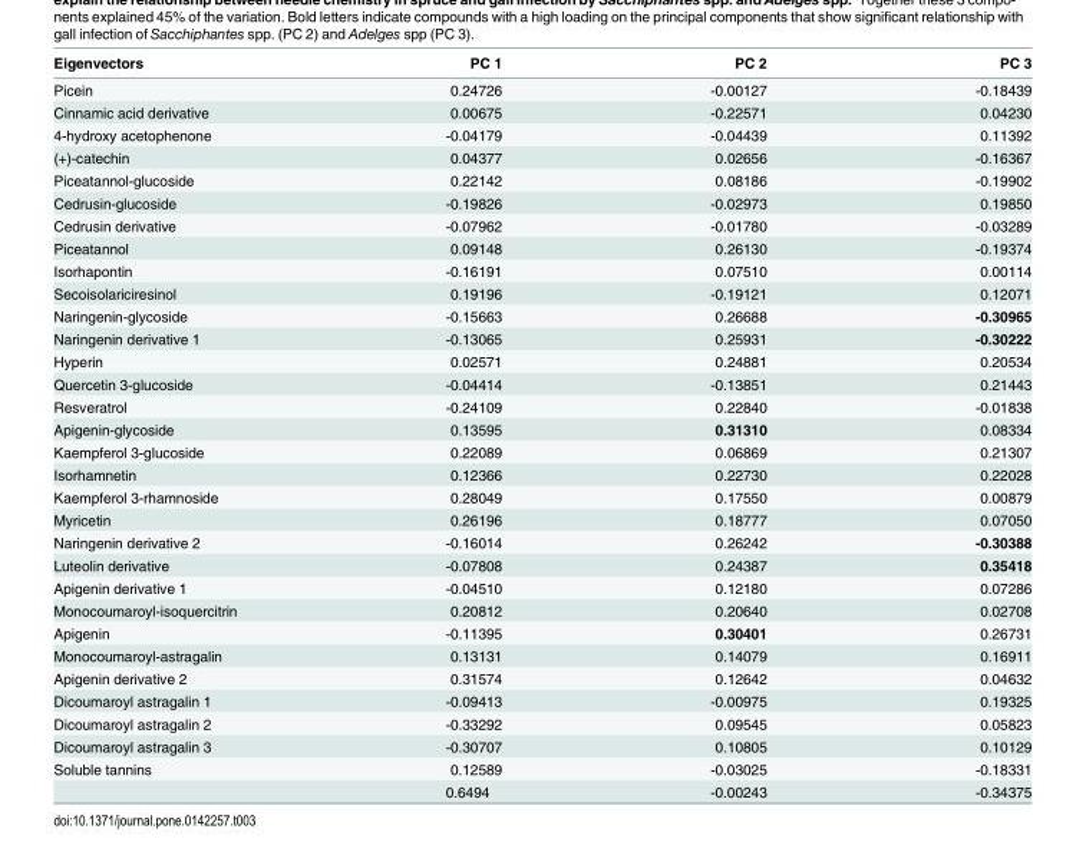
<table><thead><tr><td>Eigenvectors</td><td>PC 1</td><td>PC 2</td><td>PC 3</td></tr></thead><tbody><tr><td>Picein</td><td>0.24726</td><td>-0.00127</td><td>-0.18439</td></tr><tr><td>Cinnamic acid derivative</td><td>0.00675</td><td>-0.22571</td><td>0.04230</td></tr><tr><td>4-hydroxy acetophenone</td><td>-0.04179</td><td>-0.04439</td><td>0.11392</td></tr><tr><td>(+)-catechin</td><td>0.04377</td><td>0.02656</td><td>-0.16367</td></tr><tr><td>Piceatannol-glucoside</td><td>0.22142</td><td>0.08186</td><td>-0.19902</td></tr><tr><td>Cedrusin-glucoside</td><td>-0.19826</td><td>-0.02973</td><td>0.19850</td></tr><tr><td>Cedrusin derivative</td><td>-0.07962</td><td>-0.01780</td><td>-0.03289</td></tr><tr><td>Piceatannol</td><td>0.09148</td><td>0.26130</td><td>-0.19374</td></tr><tr><td>Isorhapontin</td><td>-0.16191</td><td>0.07510</td><td>0.00114</td></tr><tr><td>Secoisolariciresinol</td><td>0.19196</td><td>-0.19121</td><td>0.12071</td></tr><tr><td>Naringenin-glycoside</td><td>-0.15663</td><td>0.26688</td><td>-0.30965</td></tr><tr><td>Naringenin derivative 1</td><td>-0.13065</td><td>0.25931</td><td>-0.30222</td></tr><tr><td>Hyperin</td><td>0.02571</td><td>0.24881</td><td>0.20534</td></tr><tr><td>Quercetin 3-glucoside</td><td>-0.04414</td><td>-0.13851</td><td>0.21443</td></tr><tr><td>Resveratrol</td><td>-0.24109</td><td>0.22840</td><td>-0.01838</td></tr><tr><td>Apigenin-glycoside</td><td>0.13595</td><td>0.31310</td><td>0.08334</td></tr><tr><td>Kaempferol 3-glucoside</td><td>0.22089</td><td>0.06869</td><td>0.21307</td></tr><tr><td>Isorhamnetin</td><td>0.12366</td><td>0.22730</td><td>0.22028</td></tr><tr><td>Kaempferol 3-rhamnoside</td><td>0.28049</td><td>0.17550</td><td>0.00879</td></tr><tr><td>Myricetin</td><td>0.26196</td><td>0.18777</td><td>0.07050</td></tr><tr><td>Naringenin derivative 2</td><td>-0.16014</td><td>0.26242</td><td>-0.30388</td></tr><tr><td>Luteolin derivative</td><td>-0.07808</td><td>0.24387</td><td>0.35418</td></tr><tr><td>Apigenin derivative 1</td><td>-0.04510</td><td>0.12180</td><td>0.07286</td></tr><tr><td>Monocoumaroyl-isoquercitrin</td><td>0.20812</td><td>0.20640</td><td>0.02708</td></tr><tr><td>Apigenin</td><td>-0.11395</td><td>0.30401</td><td>0.26731</td></tr><tr><td>Monocoumaroyl-astragalin</td><td>0.13131</td><td>0.14079</td><td>0.16911</td></tr><tr><td>Apigenin derivative 2</td><td>0.31574</td><td>0.12642</td><td>0.04632</td></tr><tr><td>Dicoumaroyl astragalin 1</td><td>-0.09413</td><td>-0.00975</td><td>0.19325</td></tr><tr><td>Dicoumaroyl astragalin 2</td><td>-0.33292</td><td>0.09545</td><td>0.05823</td></tr><tr><td>Dicoumaroyl astragalin 3</td><td>-0.30707</td><td>0.10805</td><td>0.10129</td></tr><tr><td rowspan="2">Soluble tannins</td><td>0.12589</td><td>-0.03025</td><td>-0.18331</td></tr><tr><td>0.6494</td><td>-0.00243</td><td>-0.34375</td></tr></tbody></table>